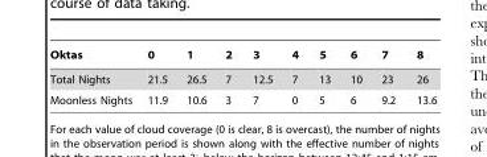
<table><thead><tr><td>Oktas</td><td>0</td><td>1</td><td>2</td><td>3</td><td>4</td><td>5</td><td>6</td><td>7</td><td>8</td></tr></thead><tbody><tr><td>Total Nights</td><td>21.5</td><td>26.5</td><td>7</td><td>12.5</td><td>7</td><td>13</td><td>10</td><td>23</td><td>26</td></tr><tr><td>Moonless Nights</td><td>11.9</td><td>10.6</td><td>3</td><td>7</td><td>0</td><td>5</td><td>6</td><td>9.2</td><td>13.6</td></tr></tbody></table>